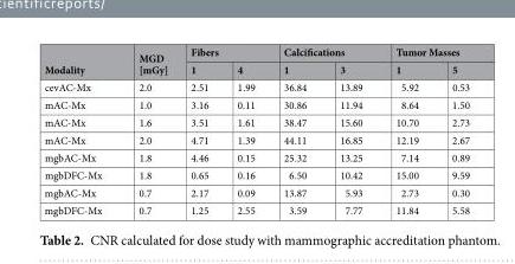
<table><thead><tr><td rowspan="2">Modality</td><td rowspan="2">MGD [mGy]</td><td colspan="2">Fibers</td><td colspan="2">Calcifications</td><td colspan="2">Tumor Masses</td></tr><tr><td>1</td><td>4</td><td>1</td><td>3</td><td>1</td><td>5</td></tr></thead><tbody><tr><td>cevAC-Mx</td><td>2.0</td><td>2.51</td><td>1.99</td><td>36.84</td><td>13.89</td><td>5.92</td><td>0.53</td></tr><tr><td>mAC-Mx</td><td>1.0</td><td>3.16</td><td>0.11</td><td>30.86</td><td>11.94</td><td>8.64</td><td>1.50</td></tr><tr><td>mAC-Mx</td><td>1.6</td><td>3.51</td><td>1.61</td><td>38.47</td><td>15.60</td><td>10.70</td><td>2.73</td></tr><tr><td>mAC-Mx</td><td>2.0</td><td>4.71</td><td>1.39</td><td>44.11</td><td>16.85</td><td>12.19</td><td>2.67</td></tr><tr><td>mgbAC-Mx</td><td>1.8</td><td>4.46</td><td>0.15</td><td>25.32</td><td>13.25</td><td>7.14</td><td>0.89</td></tr><tr><td>mgbDFC-Mx</td><td>1.8</td><td>0.65</td><td>0.16</td><td>6.50</td><td>10.42</td><td>15.00</td><td>9.59</td></tr><tr><td>mgbAC-Mx</td><td>0.7</td><td>2.17</td><td>0.09</td><td>13.87</td><td>5.93</td><td>2.73</td><td>0.30</td></tr><tr><td>mgbDFC-Mx</td><td>0.7</td><td>1.25</td><td>2.55</td><td>3.59</td><td>7.77</td><td>11.84</td><td>5.58</td></tr></tbody></table>